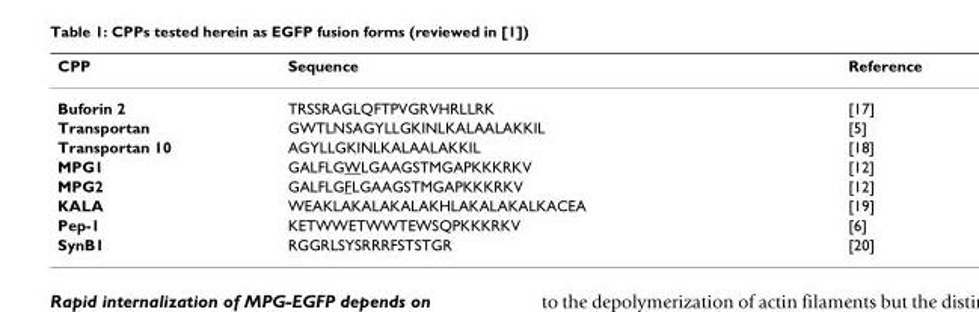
<table><thead><tr><td>CPP</td><td>Sequence</td><td>Reference</td></tr></thead><tbody><tr><td>Buforin 2</td><td>TRSSRAGLQFTPVGRVHRLLRK</td><td>[17]</td></tr><tr><td>Transportan</td><td>GWTLNSAGYLLGKINLKALAALAKKIL</td><td>[5]</td></tr><tr><td>Transportan 10</td><td>AGYLLGKINLKALAALAKKIL</td><td>[18]</td></tr><tr><td>MPG1</td><td>GALFLGWLGAAGSTMGAPKKKRKV</td><td>[12]</td></tr><tr><td>MPG2</td><td>GALFLGFLGAAGSTMGAPKKKRKV</td><td>[12]</td></tr><tr><td>KALA</td><td>WEAKLAKALAKALAKHLAKALAKALKACEA</td><td>[19]</td></tr><tr><td>Pep-1</td><td>KETWWETWWTEWSQPKKKRKV</td><td>[6]</td></tr><tr><td>SynB1</td><td>RGGRLSYSRRRFSTSTGR</td><td>[20]</td></tr></tbody></table>